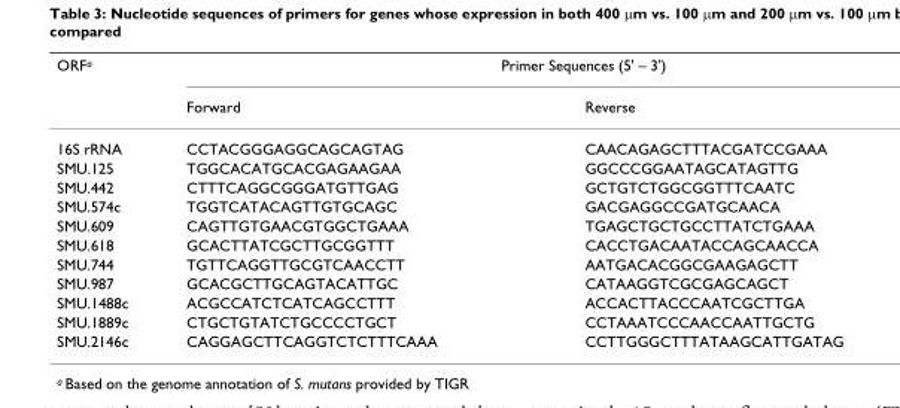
<table><thead><tr><td rowspan="2">ORF<sup>a</sup></td><td colspan="2">Primer Sequences (5&#x27; – 3&#x27;)</td></tr><tr><td>Forward</td><td>Reverse</td></tr></thead><tbody><tr><td>16S rRNA</td><td>CCTACGGGAGGCAGCAGTAG</td><td>CAACAGAGCTTTACGATCCGAAA</td></tr><tr><td>SMU.125</td><td>TGGCACATGCACGAGAAGAA</td><td>GGCCCGGAATAGCATAGTTG</td></tr><tr><td>SMU.442</td><td>CTTTCAGGCGGGATGTTGAG</td><td>GCTGTCTGGCGGTTTCAATC</td></tr><tr><td>SMU.574c</td><td>TGGTCATACAGTTGTGCAGC</td><td>GACGAGGCCGATGCAACA</td></tr><tr><td>SMU.609</td><td>CAGTTGTGAACGTGGCTGAAA</td><td>TGAGCTGCTGCCTTATCTGAAA</td></tr><tr><td>SMU.618</td><td>GCACTTATCGCTTGCGGTTT</td><td>CACCTGACAATACCAGCAACCA</td></tr><tr><td>SMU.744</td><td>TGTTCAGGTTGCGTCAACCTT</td><td>AATGACACGGCGAAGAGCTT</td></tr><tr><td>SMU.987</td><td>GCACGCTTGCAGTACATTGC</td><td>CATAAGGTCGCGAGCAGCT</td></tr><tr><td>SMU.1488c</td><td>ACGCCATCTCATCAGCCTTT</td><td>ACCACTTACCCAATCGCTTGA</td></tr><tr><td>SMU.1889c</td><td>CTGCTGTATCTGCCCCTGCT</td><td>CCTAAATCCCAACCAATTGCTG</td></tr><tr><td>SMU.2146c</td><td>CAGGAGCTTCAGGTCTCTTTCAAA</td><td>CCTTGGGCTTTATAAGCATTGATAG</td></tr></tbody></table>